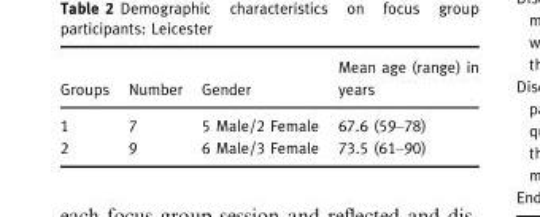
<table><thead><tr><td>Groups</td><td>Number</td><td>Gender</td><td>Mean age (range) in years</td></tr></thead><tbody><tr><td>1</td><td>7</td><td>5 Male/2 Female</td><td>67.6 (59–78)</td></tr><tr><td>2</td><td>9</td><td>6 Male/3 Female</td><td>73.5 (61–90)</td></tr></tbody></table>